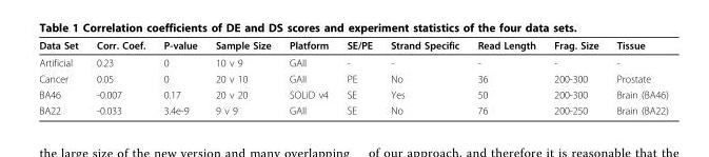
<table><thead><tr><td>Data Set</td><td>Corr. Coef.</td><td>P-value</td><td>Sample Size</td><td>Platform</td><td>SE/PE</td><td>Strand Specific</td><td>Read Length</td><td>Frag. Size</td><td>Tissue</td></tr></thead><tbody><tr><td>Artificial</td><td>0.23</td><td>0</td><td>10 v 9</td><td>GAII</td><td>-</td><td>-</td><td>-</td><td>-</td><td>-</td></tr><tr><td>Cancer</td><td>0.05</td><td>0</td><td>20 v 10</td><td>GAII</td><td>PE</td><td>No</td><td>36</td><td>200-300</td><td>Prostate</td></tr><tr><td>BA46</td><td>-0.007</td><td>0.17</td><td>20 v 20</td><td>SOLiD v4</td><td>SE</td><td>Yes</td><td>50</td><td>200-300</td><td>Brain (BA46)</td></tr><tr><td>BA22</td><td>-0.033</td><td>3.4e-9</td><td>9 v 9</td><td>GAII</td><td>SE</td><td>No</td><td>76</td><td>200-250</td><td>Brain (BA22)</td></tr></tbody></table>